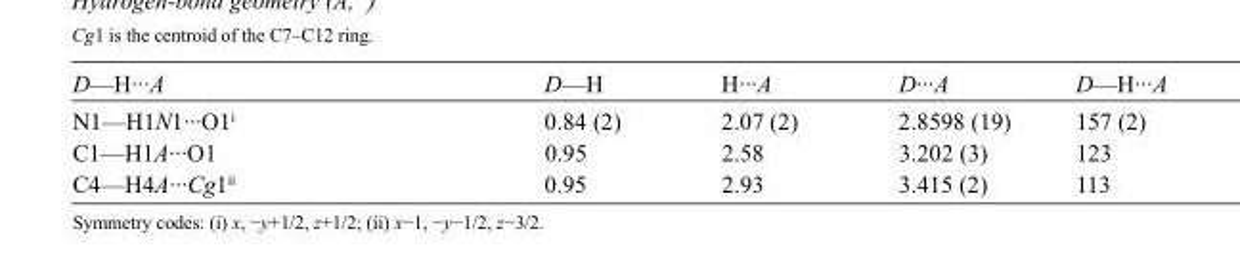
<table><tbody><tr><td>D—H···A</td><td>D—H</td><td>H···A</td><td>D···A</td><td>D—H···A</td></tr><tr><td>N1—H1N1···O1<sup>i</sup></td><td>0.84 (2)</td><td>2.07 (2)</td><td>2.8598 (19)</td><td>157 (2)</td></tr><tr><td>C1—H1A···O1</td><td>0.95</td><td>2.58</td><td>3.202 (3)</td><td>123</td></tr><tr><td>C4—H4A···Cg1<sup>ii</sup></td><td>0.95</td><td>2.93</td><td>3.415 (2)</td><td>113</td></tr></tbody></table>